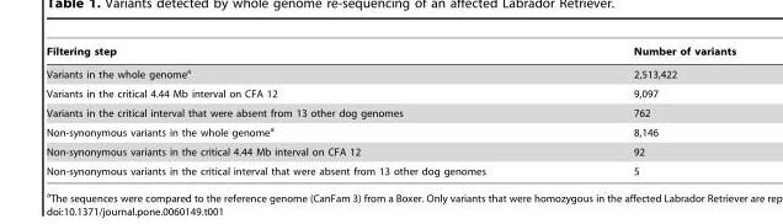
<table><thead><tr><td>Filtering step</td><td>Number of variants</td></tr></thead><tbody><tr><td>Variants in the whole genome<sup>a</sup></td><td>2,513,422</td></tr><tr><td>Variants in the critical 4.44 Mb interval on CFA 12</td><td>9,097</td></tr><tr><td>Variants in the critical interval that were absent from 13 other dog genomes</td><td>762</td></tr><tr><td>Non-synonymous variants in the whole genome<sup>a</sup></td><td>8,146</td></tr><tr><td>Non-synonymous variants in the critical 4.44 Mb interval on CFA 12</td><td>92</td></tr><tr><td>Non-synonymous variants in the critical interval that were absent from 13 other dog genomes</td><td>5</td></tr></tbody></table>